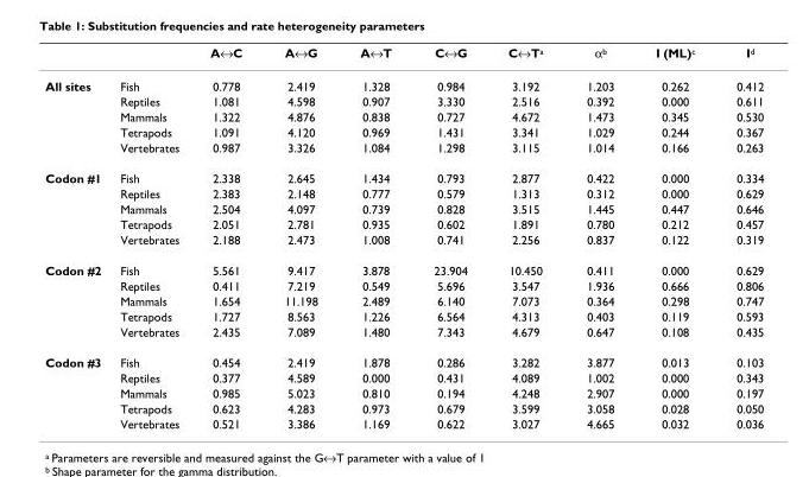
<table><thead><tr><td></td><td></td><td>A↔C</td><td>A↔G</td><td>A↔T</td><td>C↔G</td><td>C↔T<sup>a</sup></td><td>α<sup>b</sup></td><td>I (ML)<sup>c</sup></td><td>I<sup>d</sup></td></tr></thead><tbody><tr><td rowspan="5">All sites</td><td>Fish</td><td>0.778</td><td>2.419</td><td>1.328</td><td>0.984</td><td>3.192</td><td>1.203</td><td>0.262</td><td>0.412</td></tr><tr><td>Reptiles</td><td>1.081</td><td>4.598</td><td>0.907</td><td>3.330</td><td>2.516</td><td>0.392</td><td>0.000</td><td>0.611</td></tr><tr><td>Mammals</td><td>1.322</td><td>4.876</td><td>0.838</td><td>0.727</td><td>4.672</td><td>1.473</td><td>0.345</td><td>0.530</td></tr><tr><td>Tetrapods</td><td>1.091</td><td>4.120</td><td>0.969</td><td>1.431</td><td>3.341</td><td>1.029</td><td>0.244</td><td>0.367</td></tr><tr><td>Vertebrates</td><td>0.987</td><td>3.326</td><td>1.084</td><td>1.298</td><td>3.115</td><td>1.014</td><td>0.166</td><td>0.263</td></tr><tr><td rowspan="5">Codon #1</td><td>Fish</td><td>2.338</td><td>2.645</td><td>1.434</td><td>0.793</td><td>2.877</td><td>0.422</td><td>0.000</td><td>0.334</td></tr><tr><td>Reptiles</td><td>2.383</td><td>2.148</td><td>0.777</td><td>0.579</td><td>1.313</td><td>0.312</td><td>0.000</td><td>0.629</td></tr><tr><td>Mammals</td><td>2.504</td><td>4.097</td><td>0.739</td><td>0.828</td><td>3.515</td><td>1.445</td><td>0.447</td><td>0.646</td></tr><tr><td>Tetrapods</td><td>2.051</td><td>2.781</td><td>0.935</td><td>0.602</td><td>1.891</td><td>0.780</td><td>0.212</td><td>0.457</td></tr><tr><td>Vertebrates</td><td>2.188</td><td>2.473</td><td>1.008</td><td>0.741</td><td>2.256</td><td>0.837</td><td>0.122</td><td>0.319</td></tr><tr><td rowspan="5">Codon #2</td><td>Fish</td><td>5.561</td><td>9.417</td><td>3.878</td><td>23.904</td><td>10.450</td><td>0.411</td><td>0.000</td><td>0.629</td></tr><tr><td>Reptiles</td><td>0.411</td><td>7.219</td><td>0.549</td><td>5.696</td><td>3.547</td><td>1.936</td><td>0.666</td><td>0.806</td></tr><tr><td>Mammals</td><td>1.654</td><td>11.198</td><td>2.489</td><td>6.140</td><td>7.073</td><td>0.364</td><td>0.298</td><td>0.747</td></tr><tr><td>Tetrapods</td><td>1.727</td><td>8.563</td><td>1.226</td><td>6.564</td><td>4.313</td><td>0.403</td><td>0.119</td><td>0.593</td></tr><tr><td>Vertebrates</td><td>2.435</td><td>7.089</td><td>1.480</td><td>7.343</td><td>4.679</td><td>0.647</td><td>0.108</td><td>0.435</td></tr><tr><td rowspan="5">Codon #3</td><td>Fish</td><td>0.454</td><td>2.419</td><td>1.878</td><td>0.286</td><td>3.282</td><td>3.877</td><td>0.013</td><td>0.103</td></tr><tr><td>Reptiles</td><td>0.377</td><td>4.589</td><td>0.000</td><td>0.431</td><td>4.089</td><td>1.002</td><td>0.000</td><td>0.343</td></tr><tr><td>Mammals</td><td>0.985</td><td>5.023</td><td>0.810</td><td>0.194</td><td>4.248</td><td>2.907</td><td>0.000</td><td>0.197</td></tr><tr><td>Tetrapods</td><td>0.623</td><td>4.283</td><td>0.973</td><td>0.679</td><td>3.599</td><td>3.058</td><td>0.028</td><td>0.050</td></tr><tr><td>Vertebrates</td><td>0.521</td><td>3.386</td><td>1.169</td><td>0.622</td><td>3.027</td><td>4.665</td><td>0.032</td><td>0.036</td></tr></tbody></table>